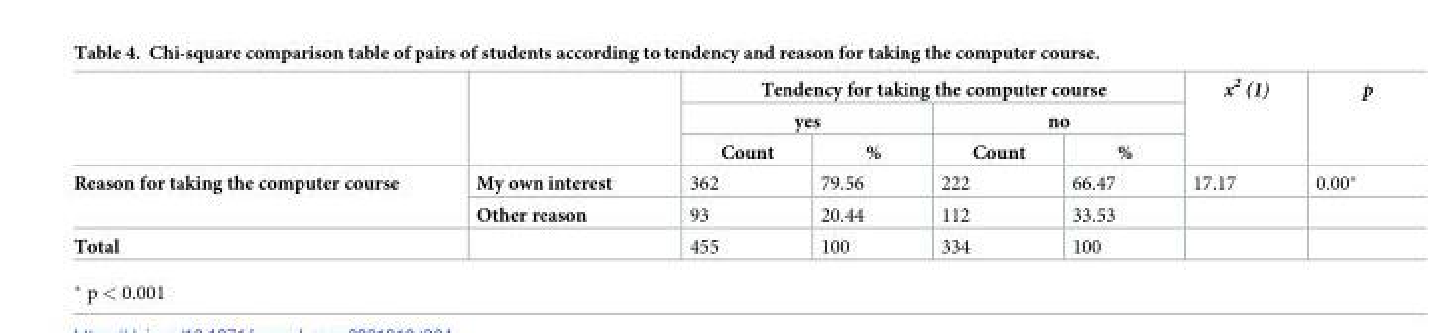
<table><thead><tr><td rowspan="3"></td><td rowspan="3"></td><td colspan="4">Tendency for taking the computer course</td><td rowspan="3">x<sup>2</sup> (1)</td><td rowspan="3">p</td></tr><tr><td colspan="2">yes</td><td colspan="2">no</td></tr><tr><td>Count</td><td>%</td><td>Count</td><td>%</td></tr></thead><tbody><tr><td rowspan="2">Reason for taking the computer course</td><td>My own interest</td><td>362</td><td>79.56</td><td>222</td><td>66.47</td><td>17.17</td><td>0.00*</td></tr><tr><td>Other reason</td><td>93</td><td>20.44</td><td>112</td><td>33.53</td><td></td><td></td></tr><tr><td>Total</td><td></td><td>455</td><td>100</td><td>334</td><td>100</td><td></td><td></td></tr></tbody></table>